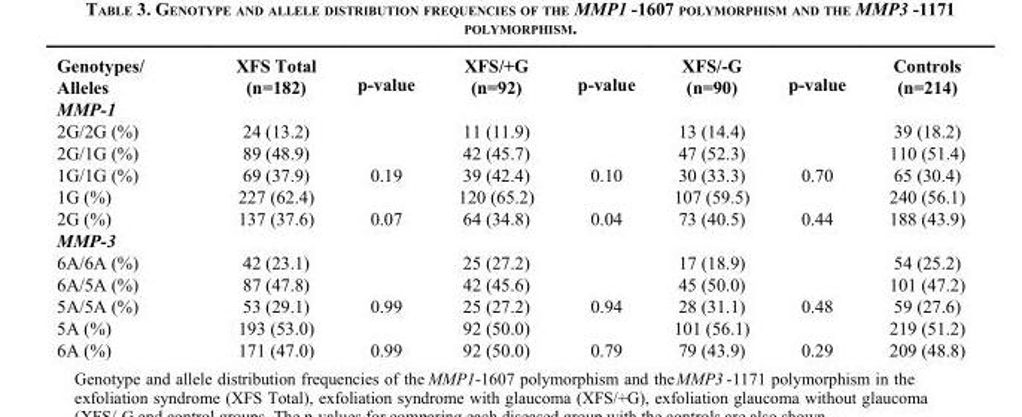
<table><thead><tr><td>Genotypes/ Alleles</td><td>XFS Total (n=182)</td><td>p-value</td><td>XFS/+G (n=92)</td><td>p-value</td><td>XFS/-G (n=90)</td><td>p-value</td><td>Controls (n=214)</td></tr></thead><tbody><tr><td colspan="8">MMP-1</td></tr><tr><td>2G/2G (%)</td><td>24 (13.2)</td><td></td><td>11 (11.9)</td><td></td><td>13 (14.4)</td><td></td><td>39 (18.2)</td></tr><tr><td>2G/1G (%)</td><td>89 (48.9)</td><td></td><td>42 (45.7)</td><td></td><td>47 (52.3)</td><td></td><td>110 (51.4)</td></tr><tr><td>1G/1G (%)</td><td>69 (37.9)</td><td>0.19</td><td>39 (42.4)</td><td>0.10</td><td>30 (33.3)</td><td>0.70</td><td>65 (30.4)</td></tr><tr><td>1G (%)</td><td>227 (62.4)</td><td></td><td>120 (65.2)</td><td></td><td>107 (59.5)</td><td></td><td>240 (56.1)</td></tr><tr><td>2G (%)</td><td>137 (37.6)</td><td>0.07</td><td>64 (34.8)</td><td>0.04</td><td>73 (40.5)</td><td>0.44</td><td>188 (43.9)</td></tr><tr><td colspan="8">MMP-3</td></tr><tr><td>6A/6A (%)</td><td>42 (23.1)</td><td></td><td>25 (27.2)</td><td></td><td>17 (18.9)</td><td></td><td>54 (25.2)</td></tr><tr><td>6A/5A (%)</td><td>87 (47.8)</td><td></td><td>42 (45.6)</td><td></td><td>45 (50.0)</td><td></td><td>101 (47.2)</td></tr><tr><td>5A/5A (%)</td><td>53 (29.1)</td><td>0.99</td><td>25 (27.2)</td><td>0.94</td><td>28 (31.1)</td><td>0.48</td><td>59 (27.6)</td></tr><tr><td>5A (%)</td><td>193 (53.0)</td><td></td><td>92 (50.0)</td><td></td><td>101 (56.1)</td><td></td><td>219 (51.2)</td></tr><tr><td>6A (%)</td><td>171 (47.0)</td><td>0.99</td><td>92 (50.0)</td><td>0.79</td><td>79 (43.9)</td><td>0.29</td><td>209 (48.8)</td></tr></tbody></table>